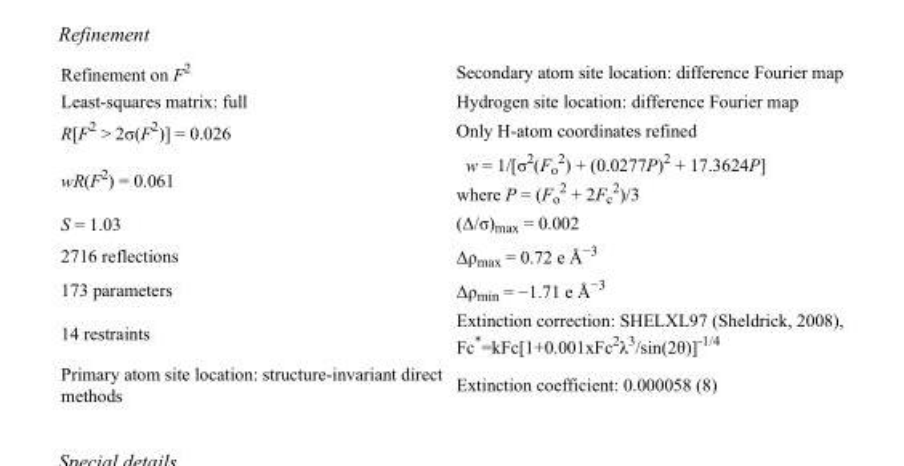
<table><tbody><tr><td>Refinement on F<sup>2</sup></td><td>Secondary atom site location: difference Fourier map</td></tr><tr><td>Least-squares matrix: full</td><td>Hydrogen site location: difference Fourier map</td></tr><tr><td>R[F<sup>2</sup> &gt; 2σ(F<sup>2</sup>)] = 0.026</td><td>Only H-atom coordinates refined</td></tr><tr><td>wR(F<sup>2</sup>) = 0.061</td><td>w = 1/[σ<sup>2</sup>(F<sub>o</sub> <sup>2</sup>) + (0.0277P)<sup>2</sup> + 17.3624P] where P = (F<sub>o</sub> <sup>2</sup> + 2F<sub>c</sub> <sup>2</sup>)/3</td></tr><tr><td>S = 1.03</td><td>(Δ/σ)<sub>max</sub> = 0.002</td></tr><tr><td>2716 reflections</td><td>Δρ<sub>max</sub> = 0.72 e Å<sup>−3</sup></td></tr><tr><td>173 parameters</td><td>Δρ<sub>min</sub> = −1.71 e Å<sup>−3</sup></td></tr><tr><td>14 restraints</td><td>Extinction correction: SHELXL97 (Sheldrick, 2008), Fc*=kFc[1+0.001xFc<sup>2</sup>λ<sup>3</sup>/sin(2θ)]<sup>-1/4</sup></td></tr><tr><td>Primary atom site location: structure-invariant direct methods</td><td>Extinction coefficient: 0.000058 (8)</td></tr></tbody></table>